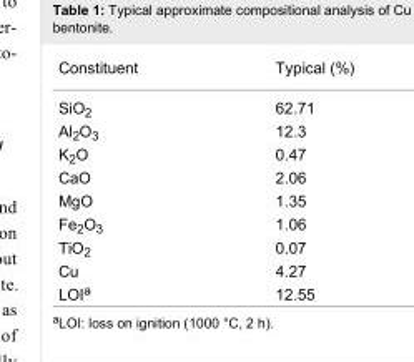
<table><tbody><tr><td>Constituent</td><td>Typical (%)</td></tr><tr><td>SiO<sub>2</sub></td><td>62.71</td></tr><tr><td>Al<sub>2</sub>O<sub>3</sub></td><td>12.3</td></tr><tr><td>K<sub>2</sub>O</td><td>0.47</td></tr><tr><td>CaO</td><td>2.06</td></tr><tr><td>MgO</td><td>1.35</td></tr><tr><td>Fe<sub>2</sub>O<sub>3</sub></td><td>1.06</td></tr><tr><td>TiO<sub>2</sub></td><td>0.07</td></tr><tr><td>Cu</td><td>4.27</td></tr><tr><td>LOI<sup>a</sup></td><td>12.55</td></tr></tbody></table>